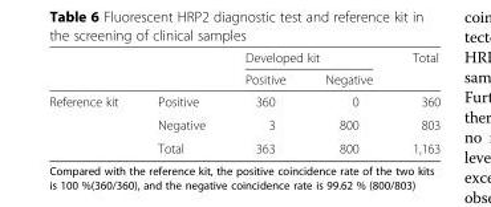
<table><thead><tr><td rowspan="2"></td><td rowspan="2"></td><td colspan="2">Developed kit</td><td rowspan="2">Total</td></tr><tr><td>Positive</td><td>Negative</td></tr></thead><tbody><tr><td rowspan="3">Reference kit</td><td>Positive</td><td>360</td><td>0</td><td>360</td></tr><tr><td>Negative</td><td>3</td><td>800</td><td>803</td></tr><tr><td>Total</td><td>363</td><td>800</td><td>1,163</td></tr></tbody></table>